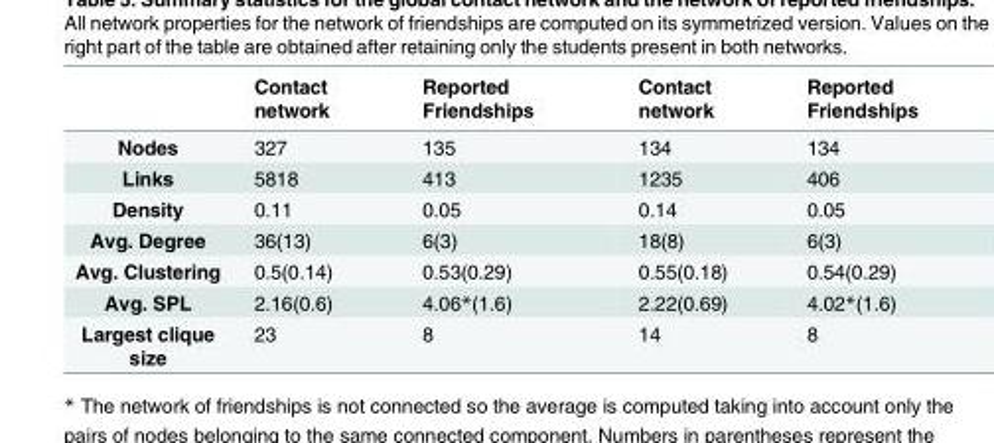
<table><thead><tr><td></td><td>Contact network</td><td>Reported Friendships</td><td>Contact network</td><td>Reported Friendships</td></tr></thead><tbody><tr><td>Nodes</td><td>327</td><td>135</td><td>134</td><td>134</td></tr><tr><td>Links</td><td>5818</td><td>413</td><td>1235</td><td>406</td></tr><tr><td>Density</td><td>0.11</td><td>0.05</td><td>0.14</td><td>0.05</td></tr><tr><td>Avg. Degree</td><td>36(13)</td><td>6(3)</td><td>18(8)</td><td>6(3)</td></tr><tr><td>Avg. Clustering</td><td>0.5(0.14)</td><td>0.53(0.29)</td><td>0.55(0.18)</td><td>0.54(0.29)</td></tr><tr><td>Avg. SPL</td><td>2.16(0.6)</td><td>4.06*(1.6)</td><td>2.22(0.69)</td><td>4.02*(1.6)</td></tr><tr><td>Largest clique size</td><td>23</td><td>8</td><td>14</td><td>8</td></tr></tbody></table>